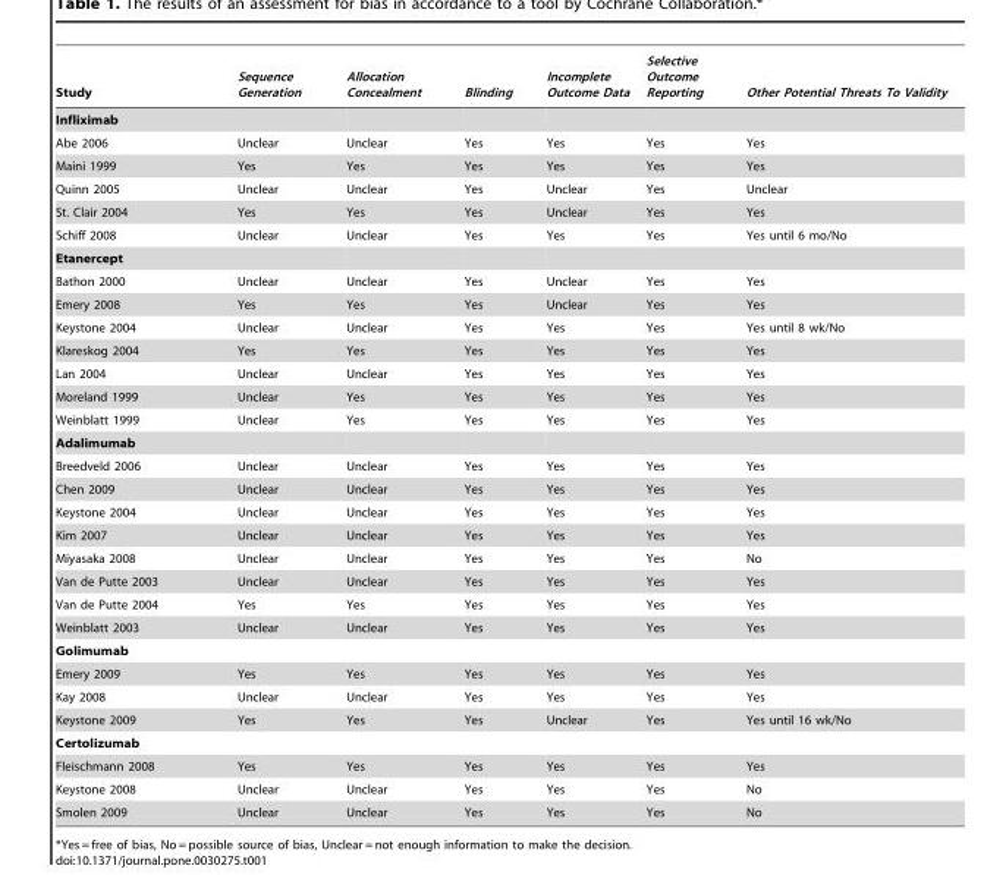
<table><thead><tr><td>Study</td><td>Sequence Generation</td><td>Allocation Concealment</td><td>Blinding</td><td>Incomplete Outcome Data</td><td>Selective Outcome Reporting</td><td>Other Potential Threats To Validity</td></tr></thead><tbody><tr><td colspan="7">Infliximab</td></tr><tr><td>Abe 2006</td><td>Unclear</td><td>Unclear</td><td>Yes</td><td>Yes</td><td>Yes</td><td>Yes</td></tr><tr><td>Maini 1999</td><td>Yes</td><td>Yes</td><td>Yes</td><td>Yes</td><td>Yes</td><td>Yes</td></tr><tr><td>Quinn 2005</td><td>Unclear</td><td>Unclear</td><td>Yes</td><td>Unclear</td><td>Yes</td><td>Unclear</td></tr><tr><td>St. Clair 2004</td><td>Yes</td><td>Yes</td><td>Yes</td><td>Unclear</td><td>Yes</td><td>Yes</td></tr><tr><td>Schiff 2008</td><td>Unclear</td><td>Unclear</td><td>Yes</td><td>Yes</td><td>Yes</td><td>Yes until 6 mo/No</td></tr><tr><td colspan="7">Etanercept</td></tr><tr><td>Bathon 2000</td><td>Unclear</td><td>Unclear</td><td>Yes</td><td>Unclear</td><td>Yes</td><td>Yes</td></tr><tr><td>Emery 2008</td><td>Yes</td><td>Yes</td><td>Yes</td><td>Unclear</td><td>Yes</td><td>Yes</td></tr><tr><td>Keystone 2004</td><td>Unclear</td><td>Unclear</td><td>Yes</td><td>Yes</td><td>Yes</td><td>Yes until 8 wk/No</td></tr><tr><td>Klareskog 2004</td><td>Yes</td><td>Yes</td><td>Yes</td><td>Yes</td><td>Yes</td><td>Yes</td></tr><tr><td>Lan 2004</td><td>Unclear</td><td>Unclear</td><td>Yes</td><td>Yes</td><td>Yes</td><td>Yes</td></tr><tr><td>Moreland 1999</td><td>Unclear</td><td>Yes</td><td>Yes</td><td>Yes</td><td>Yes</td><td>Yes</td></tr><tr><td>Weinblatt 1999</td><td>Unclear</td><td>Yes</td><td>Yes</td><td>Yes</td><td>Yes</td><td>Yes</td></tr><tr><td colspan="7">Adalimumab</td></tr><tr><td>Breedveld 2006</td><td>Unclear</td><td>Unclear</td><td>Yes</td><td>Yes</td><td>Yes</td><td>Yes</td></tr><tr><td>Chen 2009</td><td>Unclear</td><td>Unclear</td><td>Yes</td><td>Yes</td><td>Yes</td><td>Yes</td></tr><tr><td>Keystone 2004</td><td>Unclear</td><td>Unclear</td><td>Yes</td><td>Yes</td><td>Yes</td><td>Yes</td></tr><tr><td>Kim 2007</td><td>Unclear</td><td>Unclear</td><td>Yes</td><td>Yes</td><td>Yes</td><td>Yes</td></tr><tr><td>Miyasaka 2008</td><td>Unclear</td><td>Unclear</td><td>Yes</td><td>Yes</td><td>Yes</td><td>No</td></tr><tr><td>Van de Putte 2003</td><td>Unclear</td><td>Unclear</td><td>Yes</td><td>Yes</td><td>Yes</td><td>Yes</td></tr><tr><td>Van de Putte 2004</td><td>Yes</td><td>Yes</td><td>Yes</td><td>Yes</td><td>Yes</td><td>Yes</td></tr><tr><td>Weinblatt 2003</td><td>Unclear</td><td>Unclear</td><td>Yes</td><td>Yes</td><td>Yes</td><td>Yes</td></tr><tr><td colspan="7">Golimumab</td></tr><tr><td>Emery 2009</td><td>Yes</td><td>Yes</td><td>Yes</td><td>Yes</td><td>Yes</td><td>Yes</td></tr><tr><td>Kay 2008</td><td>Unclear</td><td>Unclear</td><td>Yes</td><td>Yes</td><td>Yes</td><td>Yes</td></tr><tr><td>Keystone 2009</td><td>Yes</td><td>Yes</td><td>Yes</td><td>Unclear</td><td>Yes</td><td>Yes until 16 wk/No</td></tr><tr><td colspan="7">Certolizumab</td></tr><tr><td>Fleischmann 2008</td><td>Yes</td><td>Yes</td><td>Yes</td><td>Yes</td><td>Yes</td><td>Yes</td></tr><tr><td>Keystone 2008</td><td>Unclear</td><td>Unclear</td><td>Yes</td><td>Yes</td><td>Yes</td><td>No</td></tr><tr><td>Smolen 2009</td><td>Unclear</td><td>Unclear</td><td>Yes</td><td>Yes</td><td>Yes</td><td>No</td></tr></tbody></table>